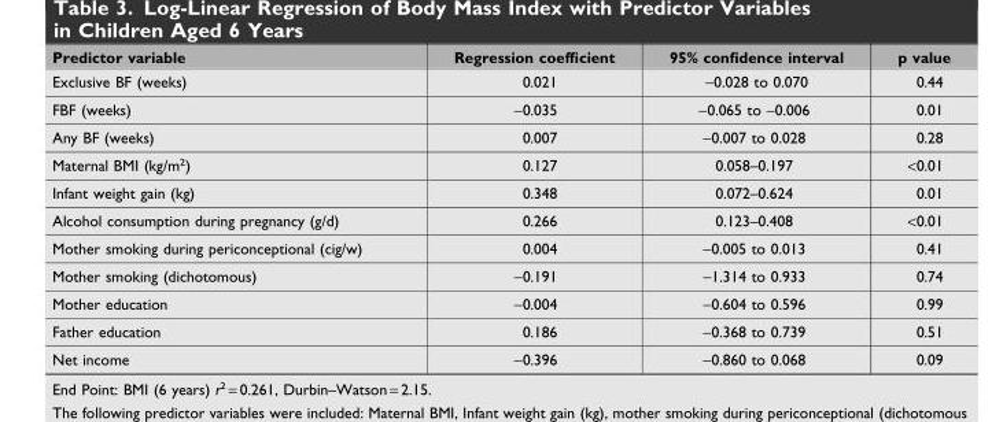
<table><thead><tr><td>Predictor variable</td><td>Regression coefficient</td><td>95% confidence interval</td><td>p value</td></tr></thead><tbody><tr><td>Exclusive BF (weeks)</td><td>0.021</td><td>-0.028 to 0.070</td><td>0.44</td></tr><tr><td>FBF (weeks)</td><td>-0.035</td><td>-0.065 to -0.006</td><td>0.01</td></tr><tr><td>Any BF (weeks)</td><td>0.007</td><td>-0.007 to 0.028</td><td>0.28</td></tr><tr><td>Maternal BMI (kg/m<sup>2</sup>)</td><td>0.127</td><td>0.058–0.197</td><td>&lt;0.01</td></tr><tr><td>Infant weight gain (kg)</td><td>0.348</td><td>0.072–0.624</td><td>0.01</td></tr><tr><td>Alcohol consumption during pregnancy (g/d)</td><td>0.266</td><td>0.123–0.408</td><td>&lt;0.01</td></tr><tr><td>Mother smoking during periconceptional (cig/w)</td><td>0.004</td><td>-0.005 to 0.013</td><td>0.41</td></tr><tr><td>Mother smoking (dichotomous)</td><td>-0.191</td><td>-1.314 to 0.933</td><td>0.74</td></tr><tr><td>Mother education</td><td>-0.004</td><td>-0.604 to 0.596</td><td>0.99</td></tr><tr><td>Father education</td><td>0.186</td><td>-0.368 to 0.739</td><td>0.51</td></tr><tr><td>Net income</td><td>-0.396</td><td>-0.860 to 0.068</td><td>0.09</td></tr></tbody></table>